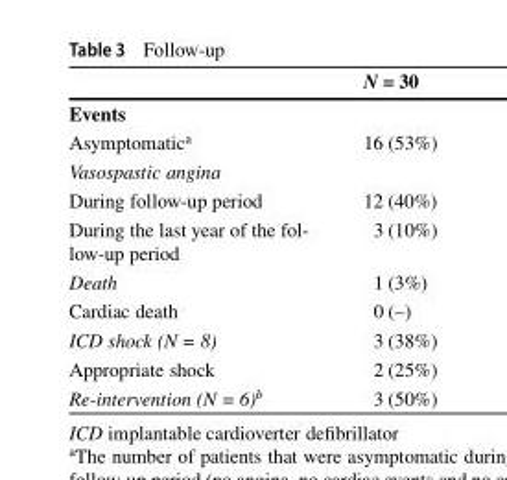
<table><thead><tr><td></td><td>N = 30</td></tr></thead><tbody><tr><td colspan="2">Events</td></tr><tr><td>Asymptomatic<sup>a</sup></td><td>16 (53%)</td></tr><tr><td colspan="2">Vasospastic angina</td></tr><tr><td>During follow-up period</td><td>12 (40%)</td></tr><tr><td>During the last year of the fol- low-up period</td><td>3 (10%)</td></tr><tr><td>Death</td><td>1 (3%)</td></tr><tr><td>Cardiac death</td><td>0 (–)</td></tr><tr><td>ICD shock (N = 8)</td><td>3 (38%)</td></tr><tr><td>Appropriate shock</td><td>2 (25%)</td></tr><tr><td>Re-intervention (N = 6)<sup>b</sup></td><td>3 (50%)</td></tr></tbody></table>